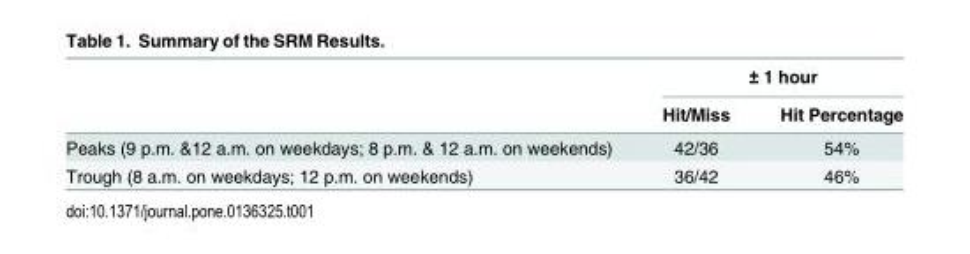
<table><thead><tr><td rowspan="2"></td><td colspan="2">± 1 hour</td></tr><tr><td>Hit/Miss</td><td>Hit Percentage</td></tr></thead><tbody><tr><td>Peaks (9 p.m. &amp;12 a.m. on weekdays; 8 p.m. &amp; 12 a.m. on weekends)</td><td>42/36</td><td>54%</td></tr><tr><td>Trough (8 a.m. on weekdays; 12 p.m. on weekends)</td><td>36/42</td><td>46%</td></tr></tbody></table>